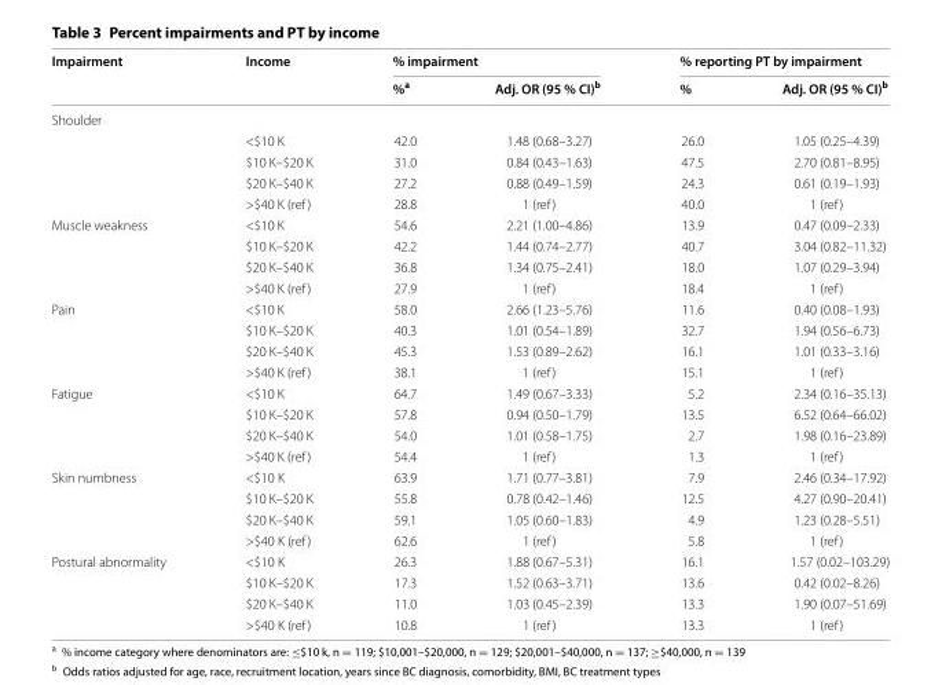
<table><thead><tr><td rowspan="2">Impairment</td><td rowspan="2">Income</td><td colspan="2">% impairment</td><td colspan="2">% reporting PT by impairment</td></tr><tr><td>%<sup>a</sup></td><td>Adj. OR (95 % CI)<sup>b</sup></td><td>%</td><td>Adj. OR (95 % CI)<sup>b</sup></td></tr></thead><tbody><tr><td colspan="6">Shoulder</td></tr><tr><td></td><td>&lt;$10 K</td><td>42.0</td><td>1.48 (0.68–3.27)</td><td>26.0</td><td>1.05 (0.25–4.39)</td></tr><tr><td></td><td>$10 K–$20 K</td><td>31.0</td><td>0.84 (0.43–1.63)</td><td>47.5</td><td>2.70 (0.81–8.95)</td></tr><tr><td></td><td>$20 K–$40 K</td><td>27.2</td><td>0.88 (0.49–1.59)</td><td>24.3</td><td>0.61 (0.19–1.93)</td></tr><tr><td></td><td>&gt;$40 K (ref)</td><td>28.8</td><td>1 (ref)</td><td>40.0</td><td>1 (ref)</td></tr><tr><td rowspan="4">Muscle weakness</td><td>&lt;$10 K</td><td>54.6</td><td>2.21 (1.00–4.86)</td><td>13.9</td><td>0.47 (0.09–2.33)</td></tr><tr><td>$10 K–$20 K</td><td>42.2</td><td>1.44 (0.74–2.77)</td><td>40.7</td><td>3.04 (0.82–11.32)</td></tr><tr><td>$20 K–$40 K</td><td>36.8</td><td>1.34 (0.75–2.41)</td><td>18.0</td><td>1.07 (0.29–3.94)</td></tr><tr><td>&gt;$40 K (ref)</td><td>27.9</td><td>1 (ref)</td><td>18.4</td><td>1 (ref)</td></tr><tr><td rowspan="4">Pain</td><td>&lt;$10 K</td><td>58.0</td><td>2.66 (1.23–5.76)</td><td>11.6</td><td>0.40 (0.08–1.93)</td></tr><tr><td>$10 K–$20 K</td><td>40.3</td><td>1.01 (0.54–1.89)</td><td>32.7</td><td>1.94 (0.56–6.73)</td></tr><tr><td>$20 K–$40 K</td><td>45.3</td><td>1.53 (0.89–2.62)</td><td>16.1</td><td>1.01 (0.33–3.16)</td></tr><tr><td>&gt;$40 K (ref)</td><td>38.1</td><td>1 (ref)</td><td>15.1</td><td>1 (ref)</td></tr><tr><td rowspan="4">Fatigue</td><td>&lt;$10 K</td><td>64.7</td><td>1.49 (0.67–3.33)</td><td>5.2</td><td>2.34 (0.16–35.13)</td></tr><tr><td>$10 K–$20 K</td><td>57.8</td><td>0.94 (0.50–1.79)</td><td>13.5</td><td>6.52 (0.64–66.02)</td></tr><tr><td>$20 K–$40 K</td><td>54.0</td><td>1.01 (0.58–1.75)</td><td>2.7</td><td>1.98 (0.16–23.89)</td></tr><tr><td>&gt;$40 K (ref)</td><td>54.4</td><td>1 (ref)</td><td>1.3</td><td>1 (ref)</td></tr><tr><td rowspan="4">Skin numbness</td><td>&lt;$10 K</td><td>63.9</td><td>1.71 (0.77–3.81)</td><td>7.9</td><td>2.46 (0.34–17.92)</td></tr><tr><td>$10 K–$20 K</td><td>55.8</td><td>0.78 (0.42–1.46)</td><td>12.5</td><td>4.27 (0.90–20.41)</td></tr><tr><td>$20 K–$40 K</td><td>59.1</td><td>1.05 (0.60–1.83)</td><td>4.9</td><td>1.23 (0.28–5.51)</td></tr><tr><td>&gt;$40 K (ref)</td><td>62.6</td><td>1 (ref)</td><td>5.8</td><td>1 (ref)</td></tr><tr><td rowspan="4">Postural abnormality</td><td>&lt;$10 K</td><td>26.3</td><td>1.88 (0.67–5.31)</td><td>16.1</td><td>1.57 (0.02–103.29)</td></tr><tr><td>$10 K–$20 K</td><td>17.3</td><td>1.52 (0.63–3.71)</td><td>13.6</td><td>0.42 (0.02–8.26)</td></tr><tr><td>$20 K–$40 K</td><td>11.0</td><td>1.03 (0.45–2.39)</td><td>13.3</td><td>1.90 (0.07–51.69)</td></tr><tr><td>&gt;$40 K (ref)</td><td>10.8</td><td>1 (ref)</td><td>13.3</td><td>1 (ref)</td></tr></tbody></table>